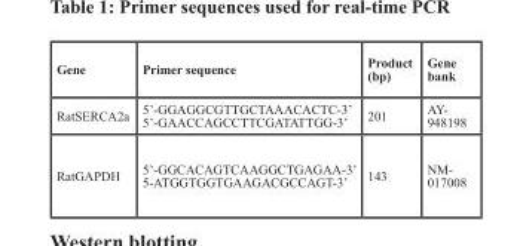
<table><thead><tr><td>Gene</td><td>Primer sequence</td><td>Product (bp)</td><td>Gene bank</td></tr></thead><tbody><tr><td>RatSERCA2a</td><td>5’-GGAGGCGTTGCTAAACACTC-3’ 5’-GAACCAGCCTTCGATATTGG-3’</td><td>201</td><td>AY- 948198</td></tr><tr><td>RatGAPDH</td><td>5’-GGCACAGTCAAGGCTGAGAA-3’ 5-ATGGTGGTGAAGACGCCAGT-3’</td><td>143</td><td>NM- 017008</td></tr></tbody></table>